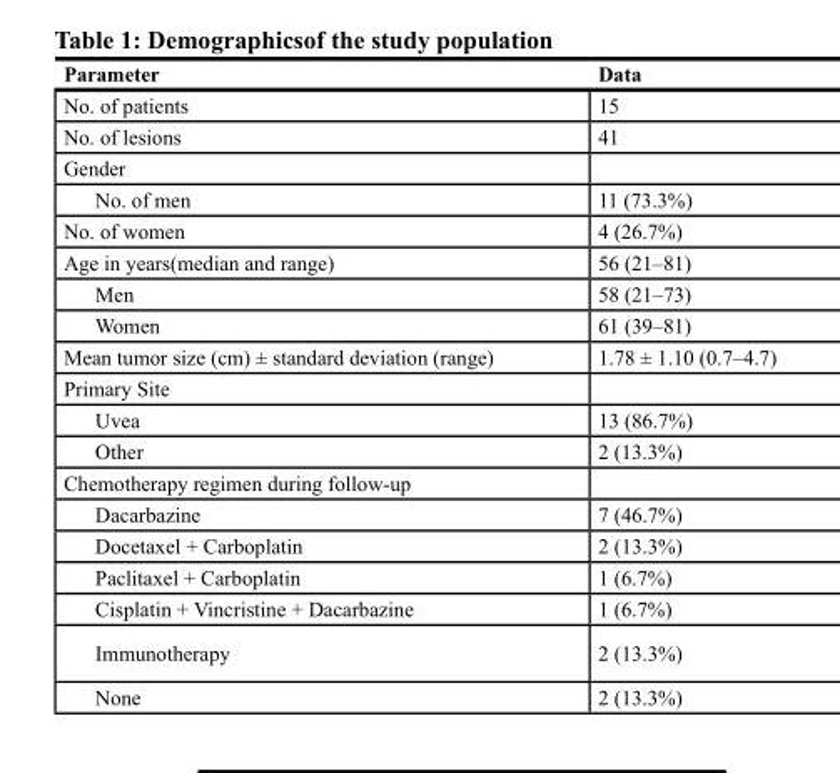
<table><thead><tr><td>Parameter</td><td>data</td></tr></thead><tbody><tr><td>No. of patients</td><td>15</td></tr><tr><td>No. of lesions</td><td>41</td></tr><tr><td colspan="2">Gender</td></tr><tr><td>No. of men</td><td>11 (73.3%)</td></tr><tr><td>No. of women</td><td>4 (26.7%)</td></tr><tr><td>Age in years(median and range)</td><td>56 (21–81)</td></tr><tr><td>Men</td><td>58 (21–73)</td></tr><tr><td>Women</td><td>61 (39–81)</td></tr><tr><td>Mean tumor size (cm) ± standard deviation (range)</td><td>1.78 ± 1.10 (0.7–4.7)</td></tr><tr><td colspan="2">Primary Site</td></tr><tr><td>Uvea</td><td>13 (86.7%)</td></tr><tr><td>Other</td><td>2 (13.3%)</td></tr><tr><td colspan="2">Chemotherapy regimen during follow-up</td></tr><tr><td>Dacarbazine</td><td>7 (46.7%)</td></tr><tr><td>Docetaxel + Carboplatin</td><td>2 (13.3%)</td></tr><tr><td>Paclitaxel + Carboplatin</td><td>1 (6.7%)</td></tr><tr><td>Cisplatin + Vincristine + Dacarbazine</td><td>1 (6.7%)</td></tr><tr><td>Immunotherapy</td><td>2 (13.3%)</td></tr><tr><td>None</td><td>2 (13.3%)</td></tr></tbody></table>